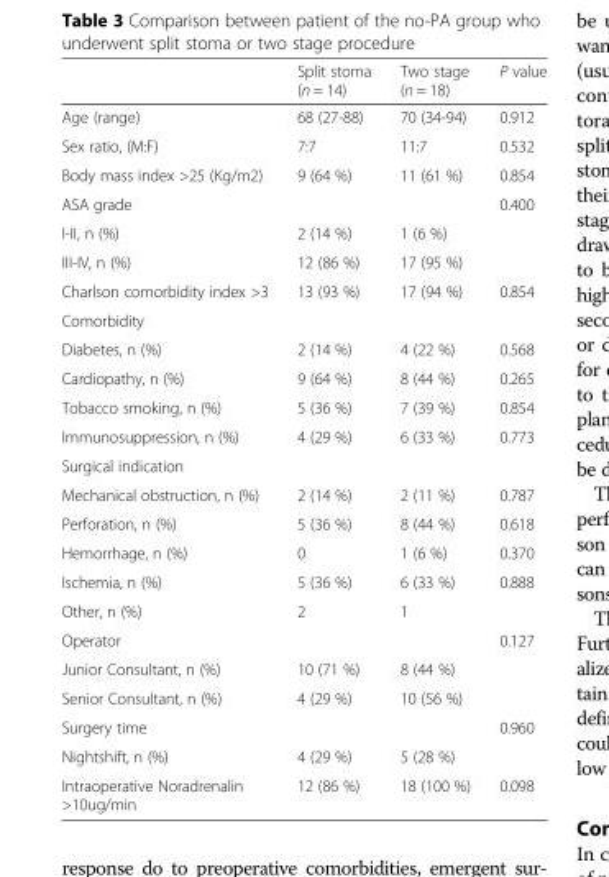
<table><thead><tr><td></td><td>Split stoma (n = 14)</td><td>Two stage (n = 18)</td><td>P value</td></tr></thead><tbody><tr><td>Age (range)</td><td>68 (27-88)</td><td>70 (34-94)</td><td>0.912</td></tr><tr><td>Sex ratio, (M:F)</td><td>7:7</td><td>11:7</td><td>0.532</td></tr><tr><td>Body mass index &gt;25 (Kg/m2)</td><td>9 (64 %)</td><td>11 (61 %)</td><td>0.854</td></tr><tr><td>ASA grade</td><td></td><td></td><td>0.400</td></tr><tr><td>I-II, n (%)</td><td>2 (14 %)</td><td>1 (6 %)</td><td></td></tr><tr><td>III-IV, n (%)</td><td>12 (86 %)</td><td>17 (95 %)</td><td></td></tr><tr><td>Charlson comorbidity index &gt;3</td><td>13 (93 %)</td><td>17 (94 %)</td><td>0.854</td></tr><tr><td colspan="4">Comorbidity</td></tr><tr><td>Diabetes, n (%)</td><td>2 (14 %)</td><td>4 (22 %)</td><td>0.568</td></tr><tr><td>Cardiopathy, n (%)</td><td>9 (64 %)</td><td>8 (44 %)</td><td>0.265</td></tr><tr><td>Tobacco smoking, n (%)</td><td>5 (36 %)</td><td>7 (39 %)</td><td>0.854</td></tr><tr><td>Immunosuppression, n (%)</td><td>4 (29 %)</td><td>6 (33 %)</td><td>0.773</td></tr><tr><td colspan="4">Surgical indication</td></tr><tr><td>Mechanical obstruction, n (%)</td><td>2 (14 %)</td><td>2 (11 %)</td><td>0.787</td></tr><tr><td>Perforation, n (%)</td><td>5 (36 %)</td><td>8 (44 %)</td><td>0.618</td></tr><tr><td>Hemorrhage, n (%)</td><td>0</td><td>1 (6 %)</td><td>0.370</td></tr><tr><td>Ischemia, n (%)</td><td>5 (36 %)</td><td>6 (33 %)</td><td>0.888</td></tr><tr><td>Other, n (%)</td><td>2</td><td>1</td><td></td></tr><tr><td>Operator</td><td></td><td></td><td>0.127</td></tr><tr><td>Junior Consultant, n (%)</td><td>10 (71 %)</td><td>8 (44 %)</td><td></td></tr><tr><td>Senior Consultant, n (%)</td><td>4 (29 %)</td><td>10 (56 %)</td><td></td></tr><tr><td>Surgery time</td><td></td><td></td><td>0.960</td></tr><tr><td>Nightshift, n (%)</td><td>4 (29 %)</td><td>5 (28 %)</td><td></td></tr><tr><td>Intraoperative Noradrenalin &gt;10ug/min</td><td>12 (86 %)</td><td>18 (100 %)</td><td>0.098</td></tr></tbody></table>